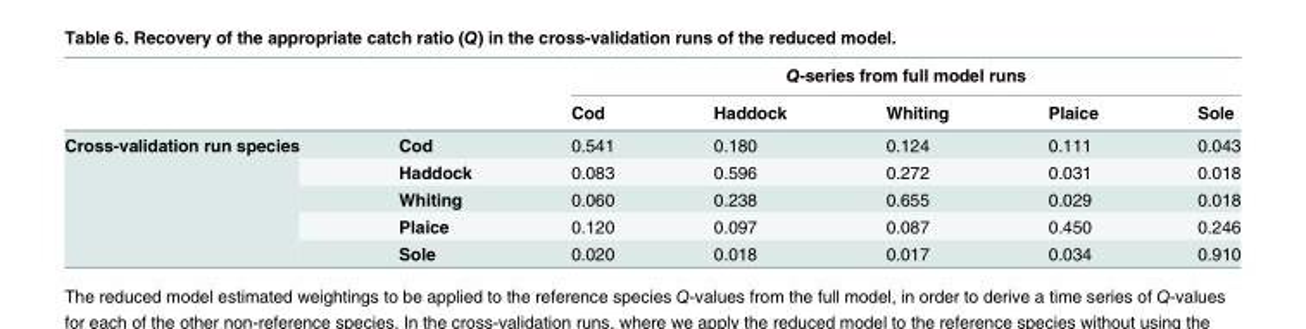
<table><thead><tr><td rowspan="2"></td><td rowspan="2"></td><td colspan="5">Q-series from full model runs</td></tr><tr><td>Cod</td><td>Haddock</td><td>Whiting</td><td>Plaice</td><td>Sole</td></tr></thead><tbody><tr><td rowspan="5">Cross-validation run species</td><td>Cod</td><td>0.541</td><td>0.180</td><td>0.124</td><td>0.111</td><td>0.043</td></tr><tr><td>Haddock</td><td>0.083</td><td>0.596</td><td>0.272</td><td>0.031</td><td>0.018</td></tr><tr><td>Whiting</td><td>0.060</td><td>0.238</td><td>0.655</td><td>0.029</td><td>0.018</td></tr><tr><td>Plaice</td><td>0.120</td><td>0.097</td><td>0.087</td><td>0.450</td><td>0.246</td></tr><tr><td>Sole</td><td>0.020</td><td>0.018</td><td>0.017</td><td>0.034</td><td>0.910</td></tr></tbody></table>